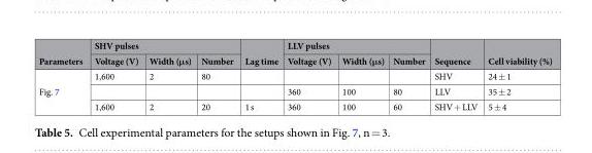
<table><thead><tr><td rowspan="2">Parameters</td><td colspan="3">SHV pulses</td><td rowspan="2">Lag time</td><td colspan="3">LLV pulses</td><td rowspan="2">Sequence</td><td rowspan="2">Cell viability (%)</td></tr><tr><td>Voltage (V)</td><td>Width (μs)</td><td>Number</td><td>Voltage (V)</td><td>Width (μs)</td><td>Number</td></tr></thead><tbody><tr><td rowspan="3">Fig. 7</td><td>1,600</td><td>2</td><td>80</td><td></td><td></td><td></td><td></td><td>SHV</td><td>24 ± 1</td></tr><tr><td></td><td></td><td></td><td></td><td>360</td><td>100</td><td>80</td><td>LLV</td><td>35 ± 2</td></tr><tr><td>1,600</td><td>2</td><td>20</td><td>1 s</td><td>360</td><td>100</td><td>60</td><td>SHV + LLV</td><td>5 ± 4</td></tr></tbody></table>